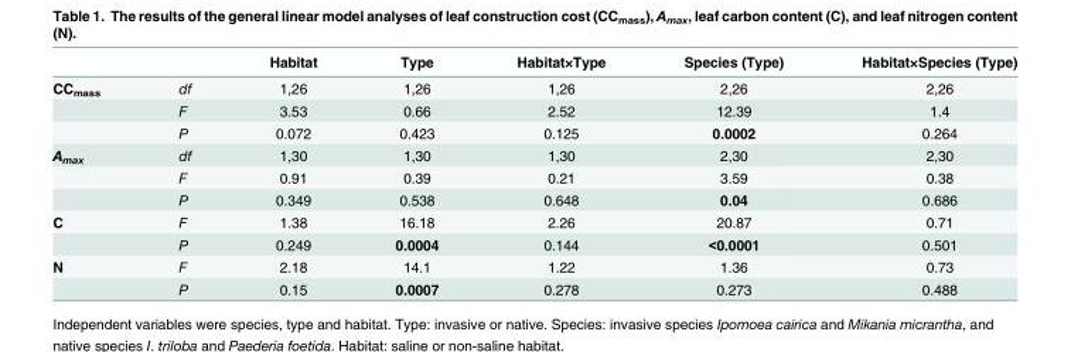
<table><thead><tr><td></td><td></td><td>Habitat</td><td>Type</td><td>Habitat×Type</td><td>Species (Type)</td><td>Habitat×Species (Type)</td></tr></thead><tbody><tr><td rowspan="3">CC<sub>mass</sub></td><td>df</td><td>1,26</td><td>1,26</td><td>1,26</td><td>2,26</td><td>2,26</td></tr><tr><td>F</td><td>3.53</td><td>0.66</td><td>2.52</td><td>12.39</td><td>1.4</td></tr><tr><td>P</td><td>0.072</td><td>0.423</td><td>0.125</td><td>0.0002</td><td>0.264</td></tr><tr><td rowspan="3">A<sub>max</sub></td><td>df</td><td>1,30</td><td>1,30</td><td>1,30</td><td>2,30</td><td>2,30</td></tr><tr><td>F</td><td>0.91</td><td>0.39</td><td>0.21</td><td>3.59</td><td>0.38</td></tr><tr><td>P</td><td>0.349</td><td>0.538</td><td>0.648</td><td>0.04</td><td>0.686</td></tr><tr><td rowspan="2">C</td><td>F</td><td>1.38</td><td>16.18</td><td>2.26</td><td>20.87</td><td>0.71</td></tr><tr><td>P</td><td>0.249</td><td>0.0004</td><td>0.144</td><td>&lt;0.0001</td><td>0.501</td></tr><tr><td rowspan="2">N</td><td>F</td><td>2.18</td><td>14.1</td><td>1.22</td><td>1.36</td><td>0.73</td></tr><tr><td>P</td><td>0.15</td><td>0.0007</td><td>0.278</td><td>0.273</td><td>0.488</td></tr></tbody></table>